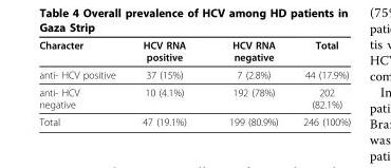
<table><thead><tr><td>Character</td><td>HCV RNA positive</td><td>HCV RNA negative</td><td>Total</td></tr></thead><tbody><tr><td>anti- HCV positive</td><td>37 (15%)</td><td>7 (2.8%)</td><td>44 (17.9%)</td></tr><tr><td>anti- HCV negative</td><td>10 (4.1%)</td><td>192 (78%)</td><td>202 (82.1%)</td></tr><tr><td>Total</td><td>47 (19.1%)</td><td>199 (80.9%)</td><td>246 (100%)</td></tr></tbody></table>